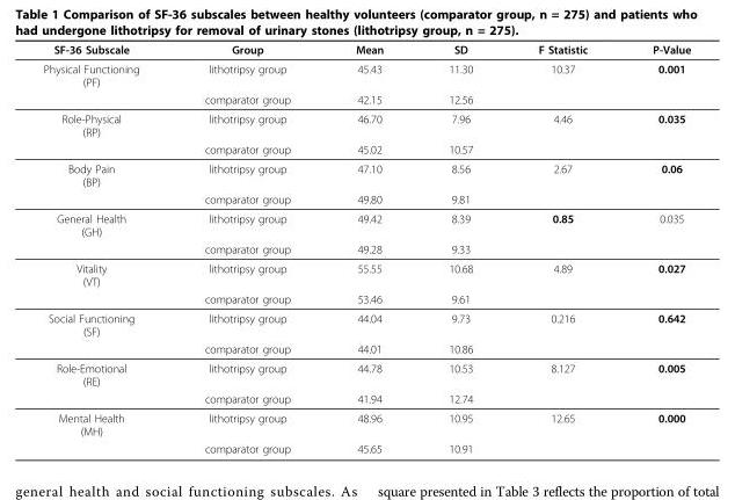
<table><thead><tr><td>SF-36 Subscale</td><td>Group</td><td>Mean</td><td>SD</td><td>F Statistic</td><td>P-Value</td></tr></thead><tbody><tr><td rowspan="2">Physical Functioning (PF)</td><td>lithotripsy group</td><td>45.43</td><td>11.30</td><td>10.37</td><td>0.001</td></tr><tr><td>comparator group</td><td>42.15</td><td>12.56</td><td></td><td></td></tr><tr><td rowspan="2">Role-Physical (RP)</td><td>lithotripsy group</td><td>46.70</td><td>7.96</td><td>4.46</td><td>0.035</td></tr><tr><td>comparator group</td><td>45.02</td><td>10.57</td><td></td><td></td></tr><tr><td rowspan="2">Body Pain (BP)</td><td>lithotripsy group</td><td>47.10</td><td>8.56</td><td>2.67</td><td>0.06</td></tr><tr><td>comparator group</td><td>49.80</td><td>9.81</td><td></td><td></td></tr><tr><td rowspan="2">General Health (GH)</td><td>lithotripsy group</td><td>49.42</td><td>8.39</td><td>0.85</td><td>0.035</td></tr><tr><td>comparator group</td><td>49.28</td><td>9.33</td><td></td><td></td></tr><tr><td rowspan="2">Vitality (VT)</td><td>lithotripsy group</td><td>55.55</td><td>10.68</td><td>4.89</td><td>0.027</td></tr><tr><td>comparator group</td><td>53.46</td><td>9.61</td><td></td><td></td></tr><tr><td rowspan="2">Social Functioning (SF)</td><td>lithotripsy group</td><td>44.04</td><td>9.73</td><td>0.216</td><td>0.642</td></tr><tr><td>comparator group</td><td>44.01</td><td>10.86</td><td></td><td></td></tr><tr><td rowspan="2">Role-Emotional (RE)</td><td>lithotripsy group</td><td>44.78</td><td>10.53</td><td>8.127</td><td>0.005</td></tr><tr><td>comparator group</td><td>41.94</td><td>12.74</td><td></td><td></td></tr><tr><td rowspan="2">Mental Health (MH)</td><td>lithotripsy group</td><td>48.96</td><td>10.95</td><td>12.65</td><td>0.000</td></tr><tr><td>comparator group</td><td>45.65</td><td>10.91</td><td></td><td></td></tr></tbody></table>